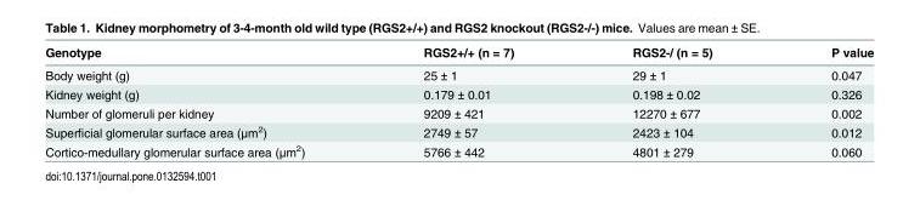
<table><thead><tr><td>Genotype</td><td>RGS2+/+ (n = 7)</td><td>RGS2-/ (n = 5)</td><td>P value</td></tr></thead><tbody><tr><td>Body weight (g)</td><td>25 ± 1</td><td>29 ± 1</td><td>0.047</td></tr><tr><td>Kidney weight (g)</td><td>0.179 ± 0.01</td><td>0.198 ± 0.02</td><td>0.326</td></tr><tr><td>Number of glomeruli per kidney</td><td>9209 ± 421</td><td>12270 ± 677</td><td>0.002</td></tr><tr><td>Superficial glomerular surface area (μm<sup>2</sup>)</td><td>2749 ± 57</td><td>2423 ± 104</td><td>0.012</td></tr><tr><td>Cortico-medullary glomerular surface area (μm<sup>2</sup>)</td><td>5766 ± 442</td><td>4801 ± 279</td><td>0.060</td></tr></tbody></table>